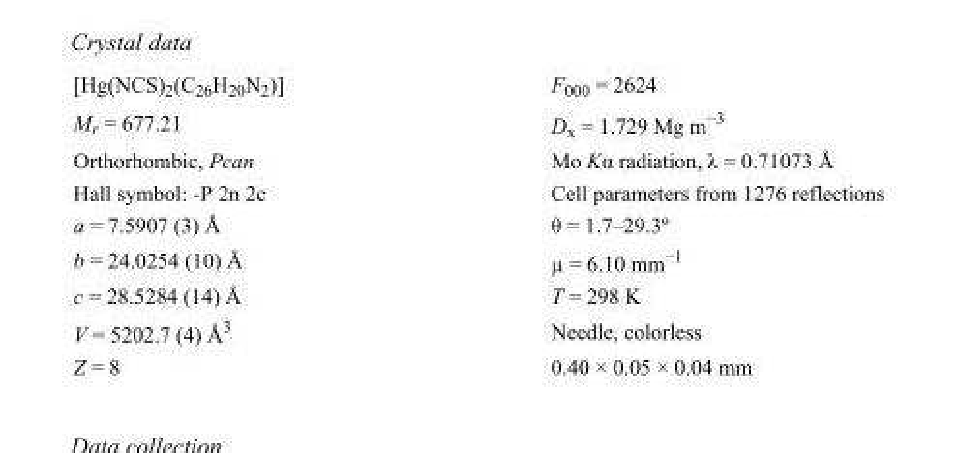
<table><tbody><tr><td>[Hg(NCS)<sub>2</sub>(C<sub>26</sub>H<sub>20</sub>N<sub>2</sub>)]</td><td>F000 = 2624</td></tr><tr><td>M<sub>r</sub> = 677.21</td><td>D<sub>x</sub> = 1.729 Mg m<sup>−3</sup></td></tr><tr><td>Orthorhombic, Pcan</td><td>Mo Kα radiation, λ = 0.71073 Å</td></tr><tr><td>Hall symbol: -P 2n 2c</td><td>Cell parameters from 1276 reflections</td></tr><tr><td>a = 7.5907 (3) Å</td><td>θ = 1.7–29.3º</td></tr><tr><td>b = 24.0254 (10) Å</td><td>µ = 6.10 mm<sup>−1</sup></td></tr><tr><td>c = 28.5284 (14) Å</td><td>T = 298 K</td></tr><tr><td>V = 5202.7 (4) Å<sup>3</sup></td><td>Needle, colorless</td></tr><tr><td>Z = 8</td><td>0.40 × 0.05 × 0.04 mm</td></tr></tbody></table>